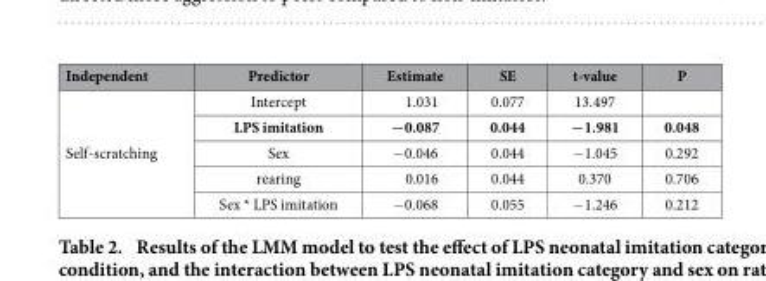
<table><thead><tr><td>Independent</td><td>Predictor</td><td>Estimate</td><td>SE</td><td>t-value</td><td>P</td></tr></thead><tbody><tr><td rowspan="5">Self-scratching</td><td>Intercept</td><td>1.031</td><td>0.077</td><td>13.497</td><td></td></tr><tr><td>LPS imitation</td><td>−0.087</td><td>0.044</td><td>−1.981</td><td>0.048</td></tr><tr><td>Sex</td><td>− 0.046</td><td>0.044</td><td>− 1.045</td><td>0.292</td></tr><tr><td>rearing</td><td>0.016</td><td>0.044</td><td>0.370</td><td>0.706</td></tr><tr><td>Sex * LPS imitation</td><td>− 0.068</td><td>0.055</td><td>− 1.246</td><td>0.212</td></tr></tbody></table>